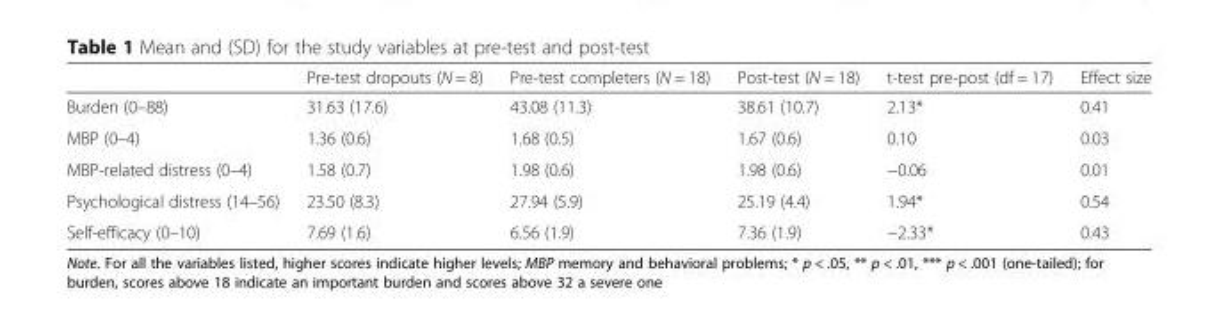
<table><thead><tr><td></td><td>Pre-test dropouts (N = 8)</td><td>Pre-test completers (N = 18)</td><td>Post-test (N = 18)</td><td>t-test pre-post (df = 17)</td><td>Effect size</td></tr></thead><tbody><tr><td>Burden (0–88)</td><td>31.63 (17.6)</td><td>43.08 (11.3)</td><td>38.61 (10.7)</td><td>2.13*</td><td>0.41</td></tr><tr><td>MBP (0–4)</td><td>1.36 (0.6)</td><td>1.68 (0.5)</td><td>1.67 (0.6)</td><td>0.10</td><td>0.03</td></tr><tr><td>MBP-related distress (0–4)</td><td>1.58 (0.7)</td><td>1.98 (0.6)</td><td>1.98 (0.6)</td><td>−0.06</td><td>0.01</td></tr><tr><td>Psychological distress (14–56)</td><td>23.50 (8.3)</td><td>27.94 (5.9)</td><td>25.19 (4.4)</td><td>1.94*</td><td>0.54</td></tr><tr><td>Self-efficacy (0–10)</td><td>7.69 (1.6)</td><td>6.56 (1.9)</td><td>7.36 (1.9)</td><td>−2.33*</td><td>0.43</td></tr></tbody></table>